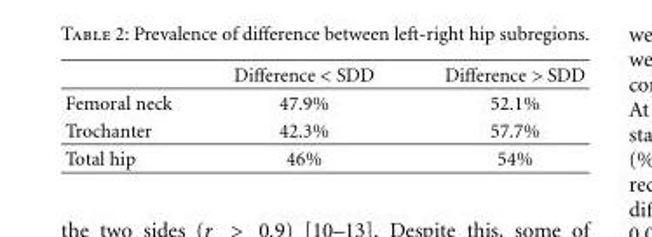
<table><thead><tr><td></td><td>Difference &lt; SDD</td><td>Difference &gt; SDD</td></tr></thead><tbody><tr><td>Femoral neck</td><td>47.9%</td><td>52.1%</td></tr><tr><td>Trochanter</td><td>42.3%</td><td>57.7%</td></tr><tr><td>Total hip</td><td>46%</td><td>54%</td></tr></tbody></table>